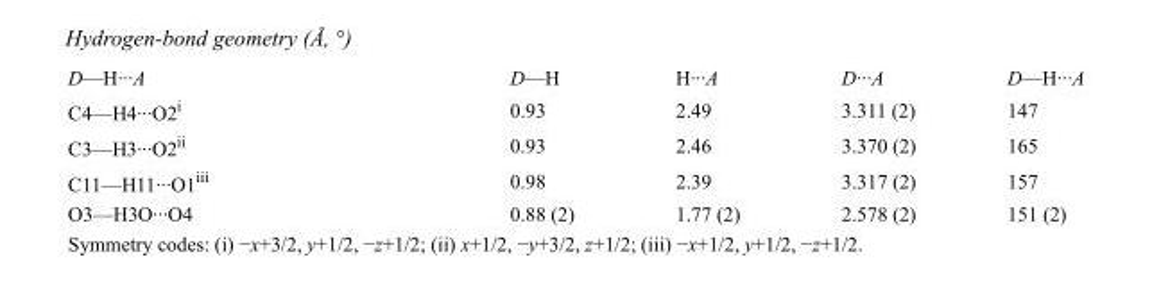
<table><tbody><tr><td>D—H···A</td><td>D—H</td><td>H···A</td><td>D···A</td><td>D—H···A</td></tr><tr><td>C4—H4···O2<sup>i</sup></td><td>0.93</td><td>2.49</td><td>3.311 (2)</td><td>147</td></tr><tr><td>C3—H3···O2<sup>ii</sup></td><td>0.93</td><td>2.46</td><td>3.370 (2)</td><td>165</td></tr><tr><td>C11—H11···O1<sup>iii</sup></td><td>0.98</td><td>2.39</td><td>3.317 (2)</td><td>157</td></tr><tr><td>O3—H3O···O4</td><td>0.88 (2)</td><td>1.77 (2)</td><td>2.578 (2)</td><td>151 (2)</td></tr></tbody></table>